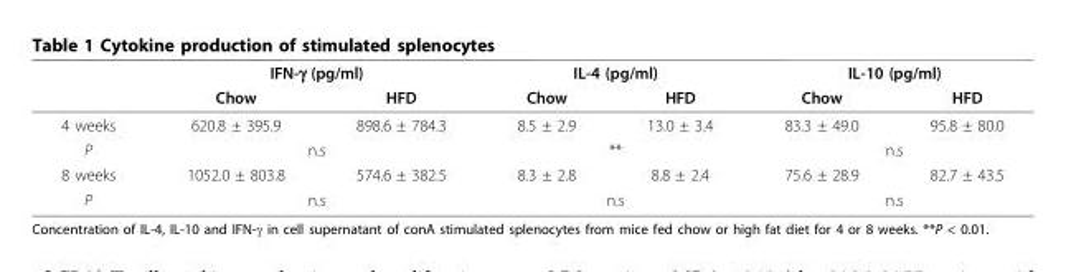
<table><thead><tr><td rowspan="2"></td><td colspan="2">IFN-γ (pg/ml)</td><td colspan="2">IL-4 (pg/ml)</td><td colspan="2">IL-10 (pg/ml)</td></tr><tr><td>Chow</td><td>HFD</td><td>Chow</td><td>HFD</td><td>Chow</td><td>HFD</td></tr></thead><tbody><tr><td>4 weeks</td><td>620.8 ± 395.9</td><td>898.6 ± 784.3</td><td>8.5 ± 2.9</td><td>13.0 ± 3.4</td><td>83.3 ± 49.0</td><td>95.8 ± 80.0</td></tr><tr><td>P</td><td colspan="2">n.s</td><td colspan="2">**</td><td colspan="2">n.s</td></tr><tr><td>8 weeks</td><td>1052.0 ± 803.8</td><td>574.6 ± 382.5</td><td>8.3 ± 2.8</td><td>8.8 ± 2.4</td><td>75.6 ± 28.9</td><td>82.7 ± 43.5</td></tr><tr><td>P</td><td colspan="2">n.s</td><td colspan="2">n.s</td><td colspan="2">n.s</td></tr></tbody></table>